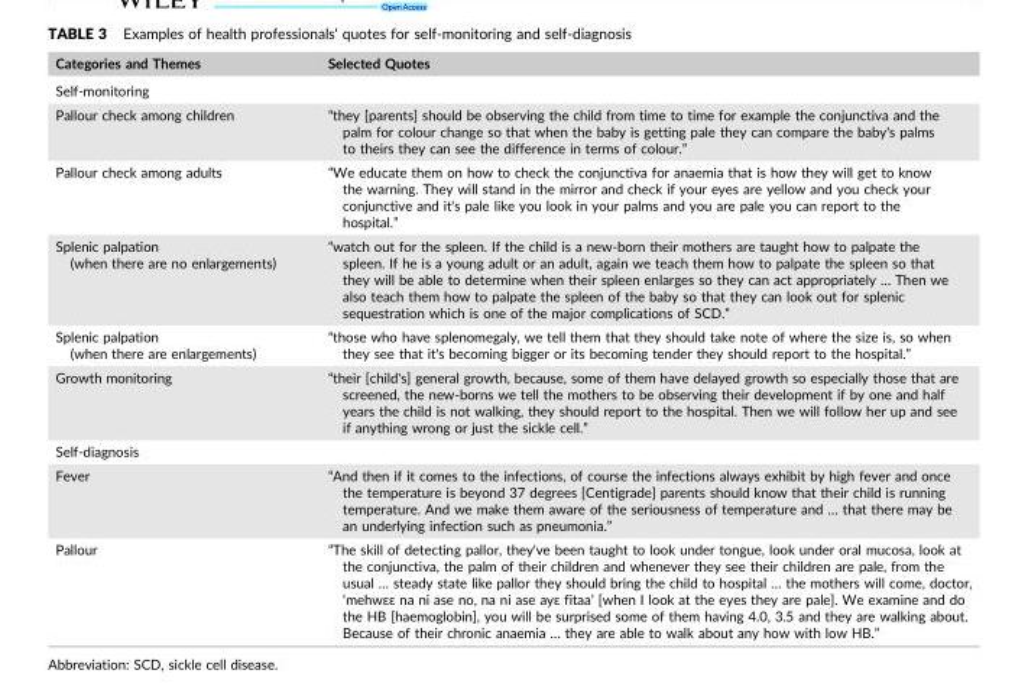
<table><thead><tr><td>Categories and Themes</td><td>Selected Quotes</td></tr></thead><tbody><tr><td colspan="2">Self‐monitoring</td></tr><tr><td>Pallour check among children</td><td>“they [parents] should be observing the child from time to time for example the conjunctiva and the palm for colour change so that when the baby is getting pale they can compare the baby&#x27;s palms to theirs they can see the difference in terms of colour.”</td></tr><tr><td>Pallour check among adults</td><td>“We educate them on how to check the conjunctiva for anaemia that is how they will get to know the warning. They will stand in the mirror and check if your eyes are yellow and you check your conjunctive and it&#x27;s pale like you look in your palms and you are pale you can report to the hospital.”</td></tr><tr><td>Splenic palpation (when there are no enlargements)</td><td>“watch out for the spleen. If the child is a new‐born their mothers are taught how to palpate the spleen. If he is a young adult or an adult, again we teach them how to palpate the spleen so that they will be able to determine when their spleen enlarges so they can act appropriately … Then we also teach them how to palpate the spleen of the baby so that they can look out for splenic sequestration which is one of the major complications of SCD.”</td></tr><tr><td>Splenic palpation (when there are enlargements)</td><td>“those who have splenomegaly, we tell them that they should take note of where the size is, so when they see that it&#x27;s becoming bigger or its becoming tender they should report to the hospital.”</td></tr><tr><td>Growth monitoring</td><td>“their [child&#x27;s] general growth, because, some of them have delayed growth so especially those that are screened, the new‐borns we tell the mothers to be observing their development if by one and half years the child is not walking, they should report to the hospital. Then we will follow her up and see if anything wrong or just the sickle cell.”</td></tr><tr><td colspan="2">Self‐diagnosis</td></tr><tr><td>Fever</td><td>“And then if it comes to the infections, of course the infections always exhibit by high fever and once the temperature is beyond 37 degrees [Centigrade] parents should know that their child is running temperature. And we make them aware of the seriousness of temperature and … that there may be an underlying infection such as pneumonia.”</td></tr><tr><td>Pallour</td><td>“The skill of detecting pallor, they&#x27;ve been taught to look under tongue, look under oral mucosa, look at the conjunctiva, the palm of their children and whenever they see their children are pale, from the usual … steady state like pallor they should bring the child to hospital … the mothers will come, doctor, ‘mehwԑԑ na ni ase no, na ni ase ayԑ fitaa’ [when I look at the eyes they are pale]. We examine and do the HB [haemoglobin], you will be surprised some of them having 4.0, 3.5 and they are walking about. Because of their chronic anaemia … they are able to walk about any how with low HB.”</td></tr></tbody></table>